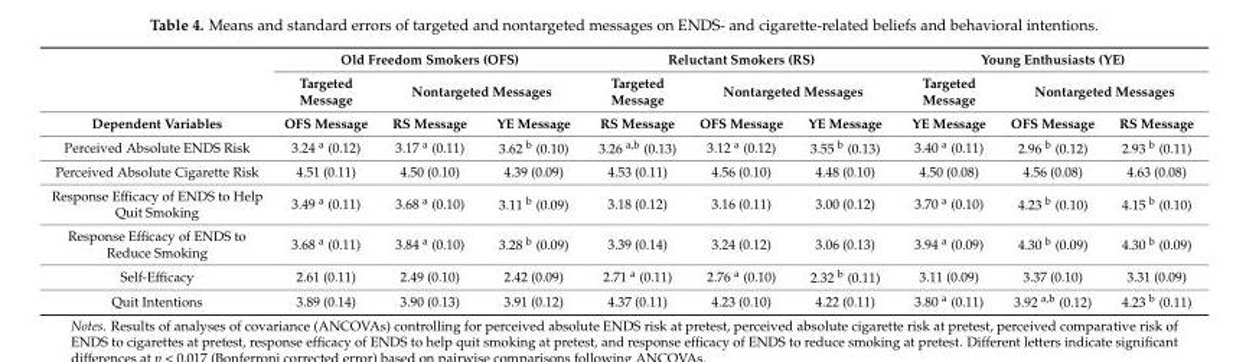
<table><thead><tr><td rowspan="3">Dependent Variables</td><td colspan="3">Old Freedom Smokers (OFS)</td><td colspan="3">Reluctant Smokers (RS)</td><td colspan="3">Young Enthusiasts (YE)</td></tr><tr><td rowspan="2">Targeted Message OFS Message</td><td colspan="2">Nontargeted Messages</td><td rowspan="2">Targeted Message RS Message</td><td colspan="2">Nontargeted Messages</td><td rowspan="2">Targeted Message YE Message</td><td colspan="2">Nontargeted Messages</td></tr><tr><td>RS Message</td><td>YE Message</td><td>OFS Message</td><td>YE Message</td><td>OFS Message</td><td>RS Message</td></tr></thead><tbody><tr><td>Perceived Absolute ENDS Risk</td><td>3.24 <sup>a</sup> (0.12)</td><td>3.17 <sup>a</sup> (0.11)</td><td>3.62 <sup>b</sup> (0.10)</td><td>3.26 <sup>a,b</sup> (0.13)</td><td>3.12 <sup>a</sup> (0.12)</td><td>3.55 <sup>b</sup> (0.13)</td><td>3.40 <sup>a</sup> (0.11)</td><td>2.96 <sup>b</sup> (0.12)</td><td>2.93 <sup>b</sup> (0.11)</td></tr><tr><td>Perceived Absolute Cigarette Risk</td><td>4.51 (0.11)</td><td>4.50 (0.10)</td><td>4.39 (0.09)</td><td>4.53 (0.11)</td><td>4.56 (0.10)</td><td>4.48 (0.10)</td><td>4.50 (0.08)</td><td>4.56 (0.08)</td><td>4.63 (0.08)</td></tr><tr><td>Response Efficacy of ENDS to Help Quit Smoking</td><td>3.49 <sup>a</sup> (0.11)</td><td>3.68 <sup>a</sup> (0.10)</td><td>3.11 <sup>b</sup> (0.09)</td><td>3.18 (0.12)</td><td>3.16 (0.11)</td><td>3.00 (0.12)</td><td>3.70 <sup>a</sup> (0.10)</td><td>4.23 <sup>b</sup> (0.10)</td><td>4.15 <sup>b</sup> (0.10)</td></tr><tr><td>Response Efficacy of ENDS to Reduce Smoking</td><td>3.68 <sup>a</sup> (0.11)</td><td>3.84 <sup>a</sup> (0.10)</td><td>3.28 <sup>b</sup> (0.09)</td><td>3.39 (0.14)</td><td>3.24 (0.12)</td><td>3.06 (0.13)</td><td>3.94 <sup>a</sup> (0.09)</td><td>4.30 <sup>b</sup> (0.09)</td><td>4.30 <sup>b</sup> (0.09)</td></tr><tr><td>Self-Efficacy</td><td>2.61 (0.11)</td><td>2.49 (0.10)</td><td>2.42 (0.09)</td><td>2.71 <sup>a</sup> (0.11)</td><td>2.76 <sup>a</sup> (0.10)</td><td>2.32 <sup>b</sup> (0.11)</td><td>3.11 (0.09)</td><td>3.37 (0.10)</td><td>3.31 (0.09)</td></tr><tr><td>Quit Intentions</td><td>3.89 (0.14)</td><td>3.90 (0.13)</td><td>3.91 (0.12)</td><td>4.37 (0.11)</td><td>4.23 (0.10)</td><td>4.22 (0.11)</td><td>3.80 <sup>a</sup> (0.11)</td><td>3.92 <sup>a,b</sup> (0.12)</td><td>4.23 <sup>b</sup> (0.11)</td></tr></tbody></table>